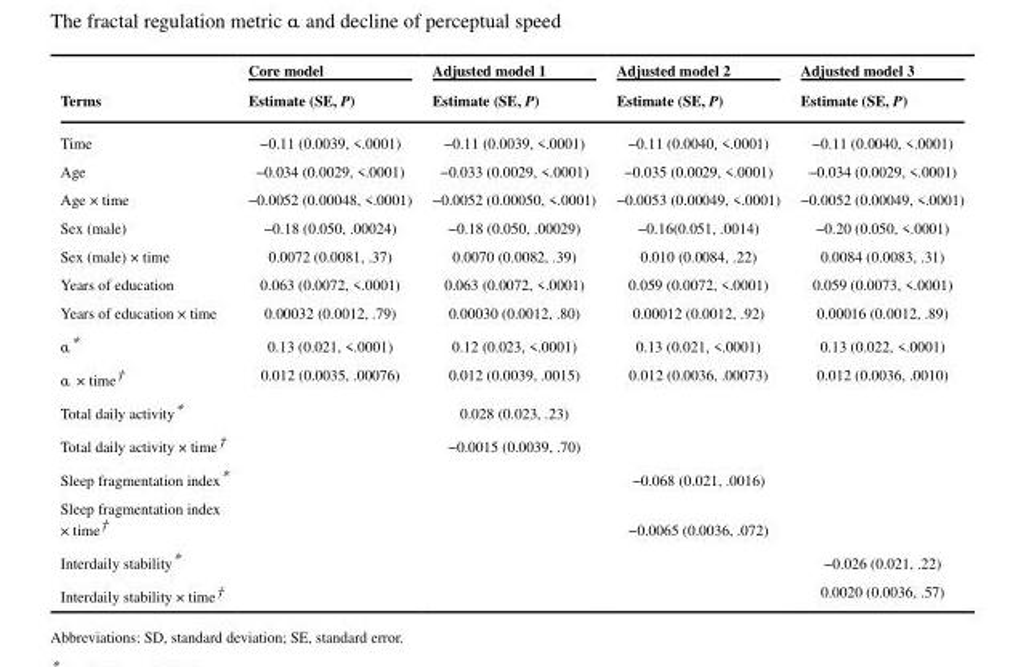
<table><thead><tr><td rowspan="2">Terms</td><td rowspan="2">Core model Estimate (SE, P)</td><td rowspan="2">Adjusted model 1 Estimate (SE, P)</td><td rowspan="2">Adjusted model 2 Estimate (SE, P)</td><td rowspan="2">Adjusted model 3 Estimate (SE, P)</td></tr><tr></tr></thead><tbody><tr><td>Time</td><td>−0.11 (0.0039, &lt;.0001)</td><td>−0.11 (0.0039, &lt;.0001)</td><td>−0.11 (0.0040, &lt;.0001)</td><td>−0.11 (0.0040, &lt;.0001)</td></tr><tr><td>Age</td><td>−0.034 (0.0029, &lt;.0001)</td><td>−0.033 (0.0029, &lt;.0001)</td><td>−0.035 (0.0029, &lt;.0001)</td><td>−0.034 (0.0029, &lt;.0001)</td></tr><tr><td>Age × time</td><td>−0.0052 (0.00048, &lt;.0001)</td><td>−0.0052 (0.00050, &lt;.0001)</td><td>−0.0053 (0.00049, &lt;.0001)</td><td>−0.0052 (0.00049, &lt;.0001)</td></tr><tr><td>Sex (male)</td><td>−0.18 (0.050, .00024)</td><td>−0.18 (0.050, .00029)</td><td>−0.16(0.051, .0014)</td><td>−0.20 (0.050, &lt;.0001)</td></tr><tr><td>Sex (male) × time</td><td>0.0072 (0.0081, .37)</td><td>0.0070 (0.0082, .39)</td><td>0.010 (0.0084, .22)</td><td>0.0084 (0.0083, .31)</td></tr><tr><td>Years of education</td><td>0.063 (0.0072, &lt;.0001)</td><td>0.063 (0.0072, &lt;.0001)</td><td>0.059 (0.0072, &lt;.0001)</td><td>0.059 (0.0073, &lt;.0001)</td></tr><tr><td>Years of education × time</td><td>0.00032 (0.0012, .79)</td><td>0.00030 (0.0012, .80)</td><td>0.00012 (0.0012, .92)</td><td>0.00016 (0.0012, .89)</td></tr><tr><td>α*</td><td>0.13 (0.021, &lt;.0001)</td><td>0.12 (0.023, &lt;.0001)</td><td>0.13 (0.021, &lt;.0001)</td><td>0.13 (0.022, &lt;.0001)</td></tr><tr><td>α × time†</td><td>0.012 (0.0035, .00076)</td><td>0.012 (0.0039, .0015)</td><td>0.012 (0.0036, .00073)</td><td>0.012 (0.0036, .0010)</td></tr><tr><td>Total daily activity*</td><td></td><td>0.028 (0.023, .23)</td><td></td><td></td></tr><tr><td>Total daily activity × time†</td><td></td><td>−0.0015 (0.0039, .70)</td><td></td><td></td></tr><tr><td>Sleep fragmentation index*</td><td></td><td></td><td>−0.068 (0.021, .0016)</td><td></td></tr><tr><td>Sleep fragmentation index × time†</td><td></td><td></td><td>−0.0065 (0.0036, .072)</td><td></td></tr><tr><td>Interdaily stability*</td><td></td><td></td><td></td><td>−0.026 (0.021, .22)</td></tr><tr><td>Interdaily stability × time†</td><td></td><td></td><td></td><td>0.0020 (0.0036, .57)</td></tr></tbody></table>